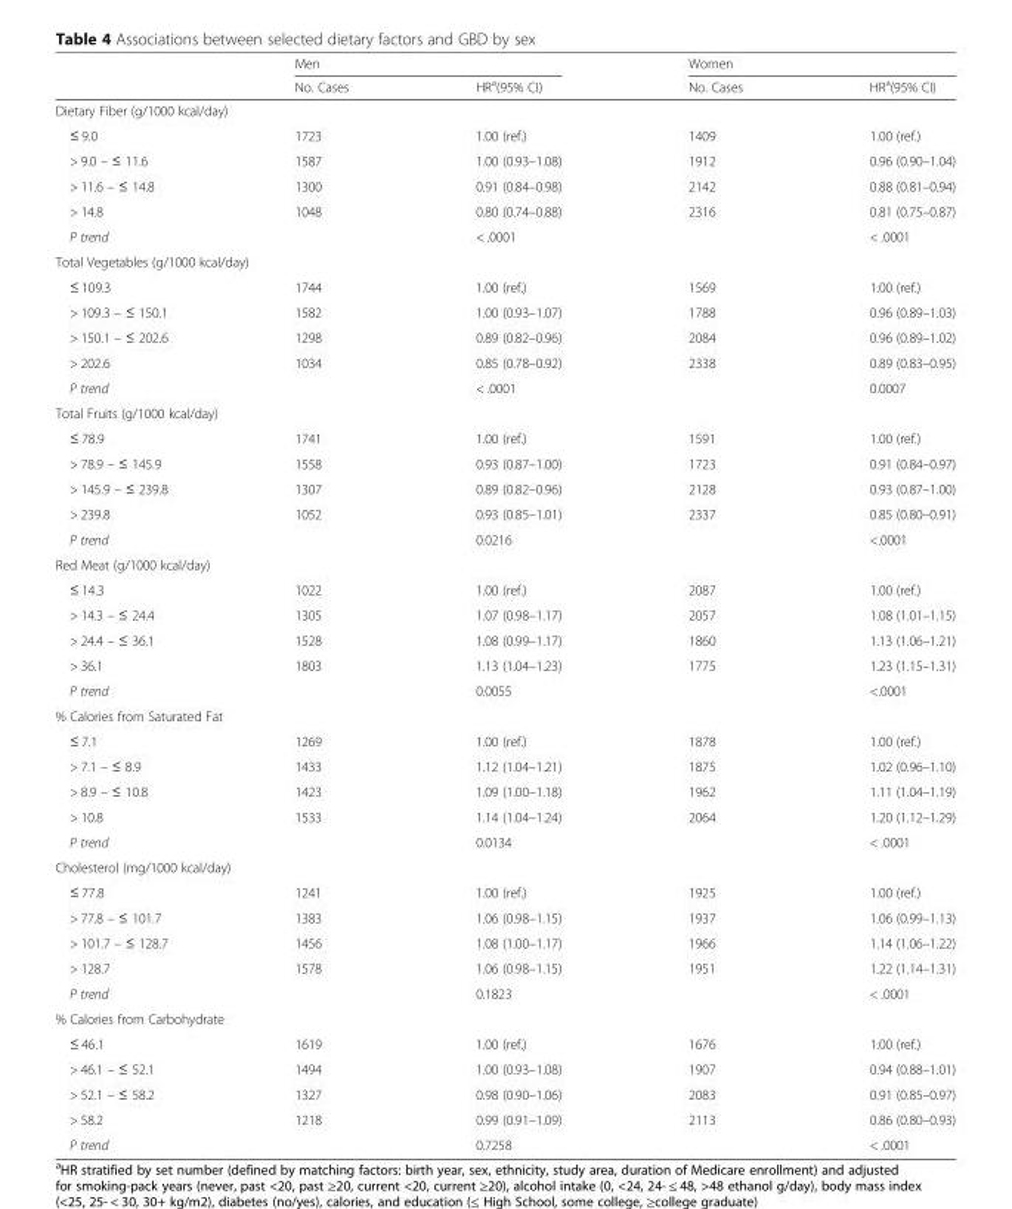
<table><thead><tr><td rowspan="2"></td><td colspan="2">Men</td><td colspan="2">Women</td></tr><tr><td>No. Cases</td><td>HR<sup>a</sup>(95% CI)</td><td>No. Cases</td><td>HR<sup>a</sup>(95% CI)</td></tr></thead><tbody><tr><td colspan="5">Dietary Fiber (g/1000 kcal/day)</td></tr><tr><td>≤ 9.0</td><td>1723</td><td>1.00 (ref.)</td><td>1409</td><td>1.00 (ref.)</td></tr><tr><td>&gt; 9.0 – ≤ 11.6</td><td>1587</td><td>1.00 (0.93–1.08)</td><td>1912</td><td>0.96 (0.90–1.04)</td></tr><tr><td>&gt; 11.6 – ≤ 14.8</td><td>1300</td><td>0.91 (0.84–0.98)</td><td>2142</td><td>0.88 (0.81–0.94)</td></tr><tr><td>&gt; 14.8</td><td>1048</td><td>0.80 (0.74–0.88)</td><td>2316</td><td>0.81 (0.75–0.87)</td></tr><tr><td>P trend</td><td></td><td>&lt; .0001</td><td></td><td>&lt; .0001</td></tr><tr><td colspan="5">Total Vegetables (g/1000 kcal/day)</td></tr><tr><td>≤ 109.3</td><td>1744</td><td>1.00 (ref.)</td><td>1569</td><td>1.00 (ref.)</td></tr><tr><td>&gt; 109.3 – ≤ 150.1</td><td>1582</td><td>1.00 (0.93–1.07)</td><td>1788</td><td>0.96 (0.89–1.03)</td></tr><tr><td>&gt; 150.1 – ≤ 202.6</td><td>1298</td><td>0.89 (0.82–0.96)</td><td>2084</td><td>0.96 (0.89–1.02)</td></tr><tr><td>&gt; 202.6</td><td>1034</td><td>0.85 (0.78–0.92)</td><td>2338</td><td>0.89 (0.83–0.95)</td></tr><tr><td>P trend</td><td></td><td>&lt; .0001</td><td></td><td>0.0007</td></tr><tr><td colspan="5">Total Fruits (g/1000 kcal/day)</td></tr><tr><td>≤ 78.9</td><td>1741</td><td>1.00 (ref.)</td><td>1591</td><td>1.00 (ref.)</td></tr><tr><td>&gt; 78.9 – ≤ 145.9</td><td>1558</td><td>0.93 (0.87–1.00)</td><td>1723</td><td>0.91 (0.84–0.97)</td></tr><tr><td>&gt; 145.9 – ≤ 239.8</td><td>1307</td><td>0.89 (0.82–0.96)</td><td>2128</td><td>0.93 (0.87–1.00)</td></tr><tr><td>&gt; 239.8</td><td>1052</td><td>0.93 (0.85–1.01)</td><td>2337</td><td>0.85 (0.80–0.91)</td></tr><tr><td>P trend</td><td></td><td>0.0216</td><td></td><td>&lt;.0001</td></tr><tr><td colspan="5">Red Meat (g/1000 kcal/day)</td></tr><tr><td>≤ 14.3</td><td>1022</td><td>1.00 (ref.)</td><td>2087</td><td>1.00 (ref.)</td></tr><tr><td>&gt; 14.3 – ≤ 24.4</td><td>1305</td><td>1.07 (0.98–1.17)</td><td>2057</td><td>1.08 (1.01–1.15)</td></tr><tr><td>&gt; 24.4 – ≤ 36.1</td><td>1528</td><td>1.08 (0.99–1.17)</td><td>1860</td><td>1.13 (1.06–1.21)</td></tr><tr><td>&gt; 36.1</td><td>1803</td><td>1.13 (1.04–1.23)</td><td>1775</td><td>1.23 (1.15–1.31)</td></tr><tr><td>P trend</td><td></td><td>0.0055</td><td></td><td>&lt;.0001</td></tr><tr><td colspan="5">% Calories from Saturated Fat</td></tr><tr><td>≤ 7.1</td><td>1269</td><td>1.00 (ref.)</td><td>1878</td><td>1.00 (ref.)</td></tr><tr><td>&gt; 7.1 – ≤ 8.9</td><td>1433</td><td>1.12 (1.04–1.21)</td><td>1875</td><td>1.02 (0.96–1.10)</td></tr><tr><td>&gt; 8.9 – ≤ 10.8</td><td>1423</td><td>1.09 (1.00–1.18)</td><td>1962</td><td>1.11 (1.04–1.19)</td></tr><tr><td>&gt; 10.8</td><td>1533</td><td>1.14 (1.04–1.24)</td><td>2064</td><td>1.20 (1.12–1.29)</td></tr><tr><td>P trend</td><td></td><td>0.0134</td><td></td><td>&lt; .0001</td></tr><tr><td colspan="5">Cholesterol (mg/1000 kcal/day)</td></tr><tr><td>≤ 77.8</td><td>1241</td><td>1.00 (ref.)</td><td>1925</td><td>1.00 (ref.)</td></tr><tr><td>&gt; 77.8 – ≤ 101.7</td><td>1383</td><td>1.06 (0.98–1.15)</td><td>1937</td><td>1.06 (0.99–1.13)</td></tr><tr><td>&gt; 101.7 – ≤ 128.7</td><td>1456</td><td>1.08 (1.00–1.17)</td><td>1966</td><td>1.14 (1.06–1.22)</td></tr><tr><td>&gt; 128.7</td><td>1578</td><td>1.06 (0.98–1.15)</td><td>1951</td><td>1.22 (1.14–1.31)</td></tr><tr><td>P trend</td><td></td><td>0.1823</td><td></td><td>&lt; .0001</td></tr><tr><td colspan="5">% Calories from Carbohydrate</td></tr><tr><td>≤ 46.1</td><td>1619</td><td>1.00 (ref.)</td><td>1676</td><td>1.00 (ref.)</td></tr><tr><td>&gt; 46.1 – ≤ 52.1</td><td>1494</td><td>1.00 (0.93–1.08)</td><td>1907</td><td>0.94 (0.88–1.01)</td></tr><tr><td>&gt; 52.1 – ≤ 58.2</td><td>1327</td><td>0.98 (0.90–1.06)</td><td>2083</td><td>0.91 (0.85–0.97)</td></tr><tr><td>&gt; 58.2</td><td>1218</td><td>0.99 (0.91–1.09)</td><td>2113</td><td>0.86 (0.80–0.93)</td></tr><tr><td>P trend</td><td></td><td>0.7258</td><td></td><td>&lt; .0001</td></tr></tbody></table>